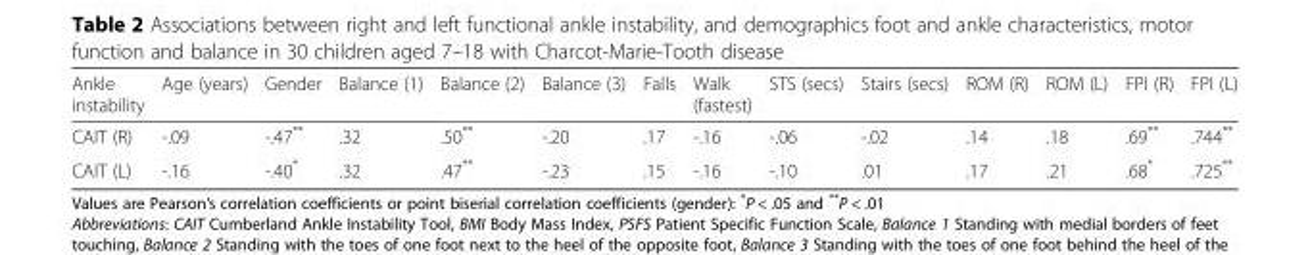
<table><thead><tr><td>Ankle instability</td><td>Age (years)</td><td>Gender</td><td>Balance (1)</td><td>Balance (2)</td><td>Balance (3)</td><td>Falls</td><td>Walk (fastest)</td><td>STS (secs)</td><td>Stairs (secs)</td><td>ROM (R)</td><td>ROM (L)</td><td>FPI (R)</td><td>FPI (L)</td></tr></thead><tbody><tr><td>CAIT (R)</td><td>-.09</td><td>-.47**</td><td>.32</td><td>.50**</td><td>-.20</td><td>.17</td><td>-.16</td><td>-.06</td><td>-.02</td><td>.14</td><td>.18</td><td>.69**</td><td>.744**</td></tr><tr><td>CAIT (L)</td><td>-.16</td><td>-.40*</td><td>.32</td><td>.47**</td><td>-.23</td><td>.15</td><td>-.16</td><td>-.10</td><td>.01</td><td>.17</td><td>.21</td><td>.68*</td><td>.725**</td></tr></tbody></table>